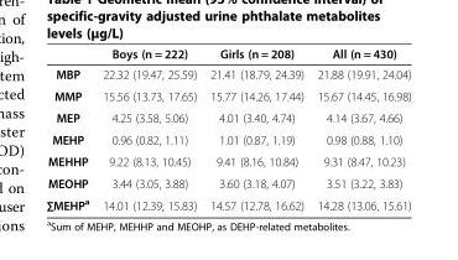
<table><thead><tr><td></td><td>Boys (n = 222)</td><td>Girls (n = 208)</td><td>All (n = 430)</td></tr></thead><tbody><tr><td>MBP</td><td>22.32 (19.47, 25.59)</td><td>21.41 (18.79, 24.39)</td><td>21.88 (19.91, 24.04)</td></tr><tr><td>MMP</td><td>15.56 (13.73, 17.65)</td><td>15.77 (14.26, 17.44)</td><td>15.67 (14.45, 16.98)</td></tr><tr><td>MEP</td><td>4.25 (3.58, 5.06)</td><td>4.01 (3.40, 4.74)</td><td>4.14 (3.67, 4.66)</td></tr><tr><td>MEHP</td><td>0.96 (0.82, 1.11)</td><td>1.01 (0.87, 1.19)</td><td>0.98 (0.88, 1.10)</td></tr><tr><td>MEHHP</td><td>9.22 (8.13, 10.45)</td><td>9.41 (8.16, 10.84)</td><td>9.31 (8.47, 10.23)</td></tr><tr><td>MEOHP</td><td>3.44 (3.05, 3.88)</td><td>3.60 (3.18, 4.07)</td><td>3.51 (3.22, 3.83)</td></tr><tr><td>∑MEHP<sup>a</sup></td><td>14.01 (12.39, 15.83)</td><td>14.57 (12.78, 16.62)</td><td>14.28 (13.06, 15.61)</td></tr></tbody></table>